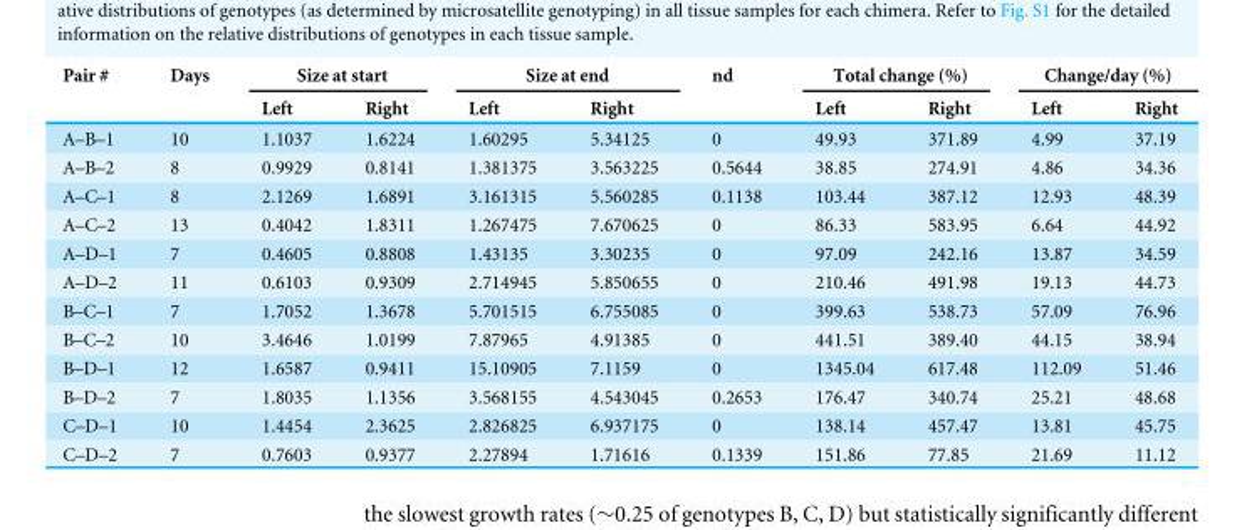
<table><thead><tr><td rowspan="2">Pair #</td><td rowspan="2">Days</td><td colspan="2">Size at start</td><td colspan="2">Size at end</td><td rowspan="2">nd</td><td colspan="2">Total change (%)</td><td colspan="2">Change/day (%)</td></tr><tr><td>Left</td><td>Right</td><td>Left</td><td>Right</td><td>Left</td><td>Right</td><td>Left</td><td>Right</td></tr></thead><tbody><tr><td>A–B–1</td><td>10</td><td>1.1037</td><td>1.6224</td><td>1.60295</td><td>5.34125</td><td>0</td><td>49.93</td><td>371.89</td><td>4.99</td><td>37.19</td></tr><tr><td>A–B–2</td><td>8</td><td>0.9929</td><td>0.8141</td><td>1.381375</td><td>3.563225</td><td>0.5644</td><td>38.85</td><td>274.91</td><td>4.86</td><td>34.36</td></tr><tr><td>A–C–1</td><td>8</td><td>2.1269</td><td>1.6891</td><td>3.161315</td><td>5.560285</td><td>0.1138</td><td>103.44</td><td>387.12</td><td>12.93</td><td>48.39</td></tr><tr><td>A–C–2</td><td>13</td><td>0.4042</td><td>1.8311</td><td>1.267475</td><td>7.670625</td><td>0</td><td>86.33</td><td>583.95</td><td>6.64</td><td>44.92</td></tr><tr><td>A–D–1</td><td>7</td><td>0.4605</td><td>0.8808</td><td>1.43135</td><td>3.30235</td><td>0</td><td>97.09</td><td>242.16</td><td>13.87</td><td>34.59</td></tr><tr><td>A–D–2</td><td>11</td><td>0.6103</td><td>0.9309</td><td>2.714945</td><td>5.850655</td><td>0</td><td>210.46</td><td>491.98</td><td>19.13</td><td>44.73</td></tr><tr><td>B–C–1</td><td>7</td><td>1.7052</td><td>1.3678</td><td>5.701515</td><td>6.755085</td><td>0</td><td>399.63</td><td>538.73</td><td>57.09</td><td>76.96</td></tr><tr><td>B–C–2</td><td>10</td><td>3.4646</td><td>1.0199</td><td>7.87965</td><td>4.91385</td><td>0</td><td>441.51</td><td>389.40</td><td>44.15</td><td>38.94</td></tr><tr><td>B–D–1</td><td>12</td><td>1.6587</td><td>0.9411</td><td>15.10905</td><td>7.1159</td><td>0</td><td>1345.04</td><td>617.48</td><td>112.09</td><td>51.46</td></tr><tr><td>B–D–2</td><td>7</td><td>1.8035</td><td>1.1356</td><td>3.568155</td><td>4.543045</td><td>0.2653</td><td>176.47</td><td>340.74</td><td>25.21</td><td>48.68</td></tr><tr><td>C–D–1</td><td>10</td><td>1.4454</td><td>2.3625</td><td>2.826825</td><td>6.937175</td><td>0</td><td>138.14</td><td>457.47</td><td>13.81</td><td>45.75</td></tr><tr><td>C–D–2</td><td>7</td><td>0.7603</td><td>0.9377</td><td>2.27894</td><td>1.71616</td><td>0.1339</td><td>151.86</td><td>77.85</td><td>21.69</td><td>11.12</td></tr></tbody></table>